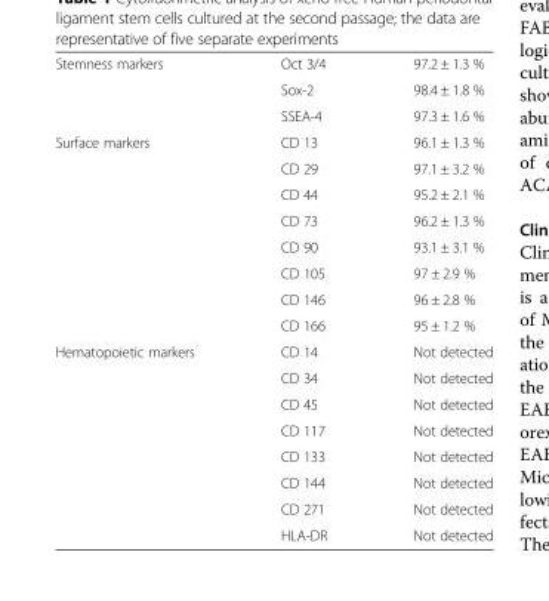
<table><tbody><tr><td rowspan="3">Stemness markers</td><td>Oct 3/4</td><td>97.2 ± 1.3 %</td></tr><tr><td>Sox-2</td><td>98.4 ± 1.8 %</td></tr><tr><td>SSEA-4</td><td>97.3 ± 1.6 %</td></tr><tr><td rowspan="8">Surface markers</td><td>CD 13</td><td>96.1 ± 1.3 %</td></tr><tr><td>CD 29</td><td>97.1 ± 3.2 %</td></tr><tr><td>CD 44</td><td>95.2 ± 2.1 %</td></tr><tr><td>CD 73</td><td>96.2 ± 1.3 %</td></tr><tr><td>CD 90</td><td>93.1 ± 3.1 %</td></tr><tr><td>CD 105</td><td>97 ± 2.9 %</td></tr><tr><td>CD 146</td><td>96 ± 2.8 %</td></tr><tr><td>CD 166</td><td>95 ± 1.2 %</td></tr><tr><td rowspan="8">Hematopoietic markers</td><td>CD 14</td><td>Not detected</td></tr><tr><td>CD 34</td><td>Not detected</td></tr><tr><td>CD 45</td><td>Not detected</td></tr><tr><td>CD 117</td><td>Not detected</td></tr><tr><td>CD 133</td><td>Not detected</td></tr><tr><td>CD 144</td><td>Not detected</td></tr><tr><td>CD 271</td><td>Not detected</td></tr><tr><td>HLA-DR</td><td>Not detected</td></tr></tbody></table>